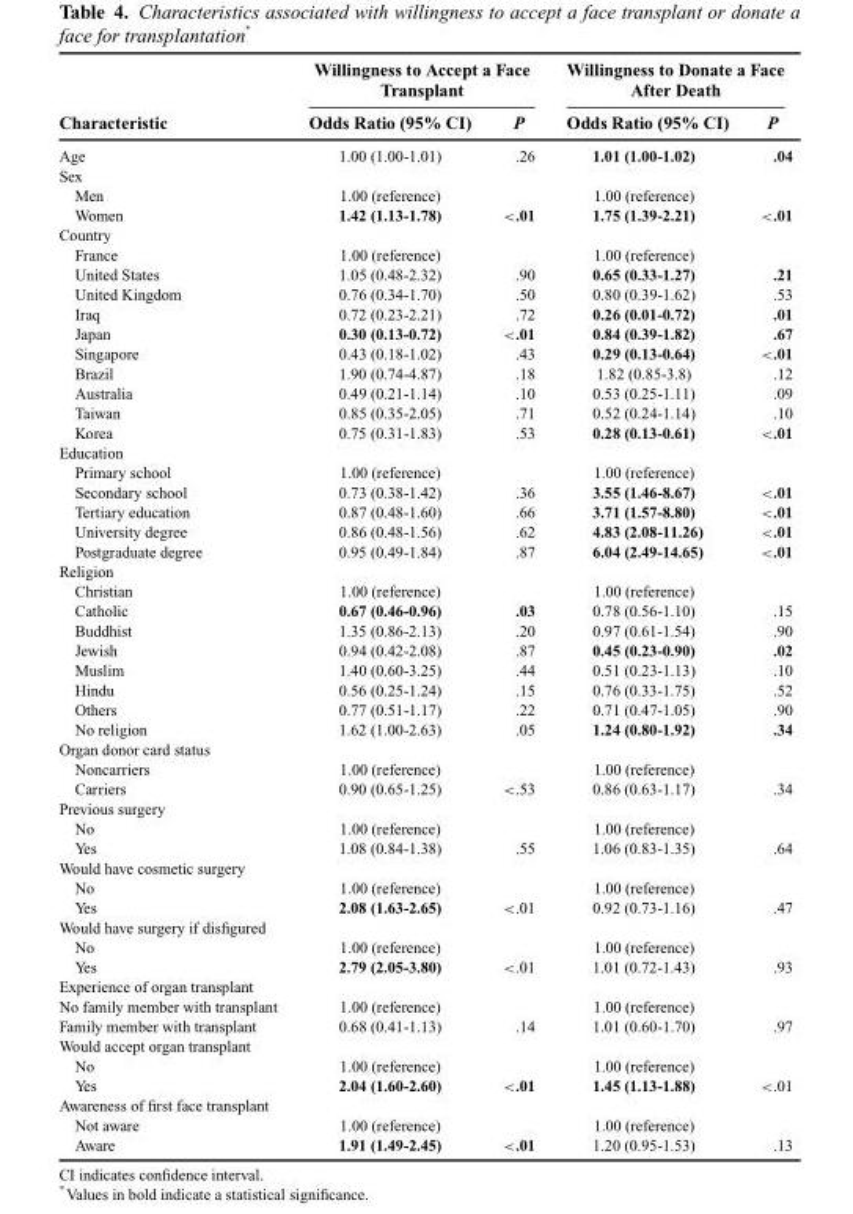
<table><thead><tr><td rowspan="2">Characteristic</td><td colspan="2">Willingness to Accept a Face Transplant</td><td colspan="2">Willingness to Donate a Face After Death</td></tr><tr><td>Odds Ratio (95% CI)</td><td>P</td><td>Odds Ratio (95% CI)</td><td>P</td></tr></thead><tbody><tr><td>Age</td><td>1.00 (1.00-1.01)</td><td>.26</td><td>1.01 (1.00-1.02)</td><td>.04</td></tr><tr><td colspan="5">Sex</td></tr><tr><td>Men</td><td>1.00 (reference)</td><td></td><td>1.00 (reference)</td><td></td></tr><tr><td>Women</td><td>1.42 (1.13-1.78)</td><td>&lt;.01</td><td>1.75 (1.39-2.21)</td><td>&lt;.01</td></tr><tr><td colspan="5">Country</td></tr><tr><td>France</td><td>1.00 (reference)</td><td></td><td>1.00 (reference)</td><td></td></tr><tr><td>United States</td><td>1.05 (0.48-2.32)</td><td>.90</td><td>0.65 (0.33-1.27)</td><td>.21</td></tr><tr><td>United Kingdom</td><td>0.76 (0.34-1.70)</td><td>.50</td><td>0.80 (0.39-1.62)</td><td>.53</td></tr><tr><td>Iraq</td><td>0.72 (0.23-2.21)</td><td>.72</td><td>0.26 (0.01-0.72)</td><td>.01</td></tr><tr><td>Japan</td><td>0.30 (0.13-0.72)</td><td>&lt;.01</td><td>0.84 (0.39-1.82)</td><td>.67</td></tr><tr><td>Singapore</td><td>0.43 (0.18-1.02)</td><td>.43</td><td>0.29 (0.13-0.64)</td><td>&lt;.01</td></tr><tr><td>Brazil</td><td>1.90 (0.74-4.87)</td><td>.18</td><td>1.82 (0.85-3.8)</td><td>.12</td></tr><tr><td>Australia</td><td>0.49 (0.21-1.14)</td><td>.10</td><td>0.53 (0.25-1.11)</td><td>.09</td></tr><tr><td>Taiwan</td><td>0.85 (0.35-2.05)</td><td>.71</td><td>0.52 (0.24-1.14)</td><td>.10</td></tr><tr><td>Korea</td><td>0.75 (0.31-1.83)</td><td>.53</td><td>0.28 (0.13-0.61)</td><td>&lt;.01</td></tr><tr><td colspan="5">Education</td></tr><tr><td>Primary school</td><td>1.00 (reference)</td><td></td><td>1.00 (reference)</td><td></td></tr><tr><td>Secondary school</td><td>0.73 (0.38-1.42)</td><td>.36</td><td>3.55 (1.46-8.67)</td><td>&lt;.01</td></tr><tr><td>Tertiary education</td><td>0.87 (0.48-1.60)</td><td>.66</td><td>3.71 (1.57-8.80)</td><td>&lt;.01</td></tr><tr><td>University degree</td><td>0.86 (0.48-1.56)</td><td>.62</td><td>4.83 (2.08-11.26)</td><td>&lt;.01</td></tr><tr><td>Postgraduate degree</td><td>0.95 (0.49-1.84)</td><td>.87</td><td>6.04 (2.49-14.65)</td><td>&lt;.01</td></tr><tr><td colspan="5">Religion</td></tr><tr><td>Christian</td><td>1.00 (reference)</td><td></td><td>1.00 (reference)</td><td></td></tr><tr><td>Catholic</td><td>0.67 (0.46-0.96)</td><td>.03</td><td>0.78 (0.56-1.10)</td><td>.15</td></tr><tr><td>Buddhist</td><td>1.35 (0.86-2.13)</td><td>.20</td><td>0.97 (0.61-1.54)</td><td>.90</td></tr><tr><td>Jewish</td><td>0.94 (0.42-2.08)</td><td>.87</td><td>0.45 (0.23-0.90)</td><td>.02</td></tr><tr><td>Muslim</td><td>1.40 (0.60-3.25)</td><td>.44</td><td>0.51 (0.23-1.13)</td><td>.10</td></tr><tr><td>Hindu</td><td>0.56 (0.25-1.24)</td><td>.15</td><td>0.76 (0.33-1.75)</td><td>.52</td></tr><tr><td>Others</td><td>0.77 (0.51-1.17)</td><td>.22</td><td>0.71 (0.47-1.05)</td><td>.90</td></tr><tr><td>No religion</td><td>1.62 (1.00-2.63)</td><td>.05</td><td>1.24 (0.80-1.92)</td><td>.34</td></tr><tr><td colspan="5">Organ donor card status</td></tr><tr><td>Noncarriers</td><td>1.00 (reference)</td><td></td><td>1.00 (reference)</td><td></td></tr><tr><td>Carriers</td><td>0.90 (0.65-1.25)</td><td>&lt;.53</td><td>0.86 (0.63-1.17)</td><td>.34</td></tr><tr><td colspan="5">Previous surgery</td></tr><tr><td>No</td><td>1.00 (reference)</td><td></td><td>1.00 (reference)</td><td></td></tr><tr><td>Yes</td><td>1.08 (0.84-1.38)</td><td>.55</td><td>1.06 (0.83-1.35)</td><td>.64</td></tr><tr><td colspan="5">Would have cosmetic surgery</td></tr><tr><td>No</td><td>1.00 (reference)</td><td></td><td>1.00 (reference)</td><td></td></tr><tr><td>Yes</td><td>2.08 (1.63-2.65)</td><td>&lt;.01</td><td>0.92 (0.73-1.16)</td><td>.47</td></tr><tr><td colspan="5">Would have surgery if disfigured</td></tr><tr><td>No</td><td>1.00 (reference)</td><td></td><td>1.00 (reference)</td><td></td></tr><tr><td>Yes</td><td>2.79 (2.05-3.80)</td><td>&lt;.01</td><td>1.01 (0.72-1.43)</td><td>.93</td></tr><tr><td colspan="5">Experience of organ transplant</td></tr><tr><td>No family member with transplant</td><td>1.00 (reference)</td><td></td><td>1.00 (reference)</td><td></td></tr><tr><td>Family member with transplant</td><td>0.68 (0.41-1.13)</td><td>.14</td><td>1.01 (0.60-1.70)</td><td>.97</td></tr><tr><td colspan="5">Would accept organ transplant</td></tr><tr><td>No</td><td>1.00 (reference)</td><td></td><td>1.00 (reference)</td><td></td></tr><tr><td>Yes</td><td>2.04 (1.60-2.60)</td><td>&lt;.01</td><td>1.45 (1.13-1.88)</td><td>&lt;.01</td></tr><tr><td colspan="5">Awareness of first face transplant</td></tr><tr><td>Not aware</td><td>1.00 (reference)</td><td></td><td>1.00 (reference)</td><td></td></tr><tr><td>Aware</td><td>1.91 (1.49-2.45)</td><td>&lt;.01</td><td>1.20 (0.95-1.53)</td><td>.13</td></tr></tbody></table>